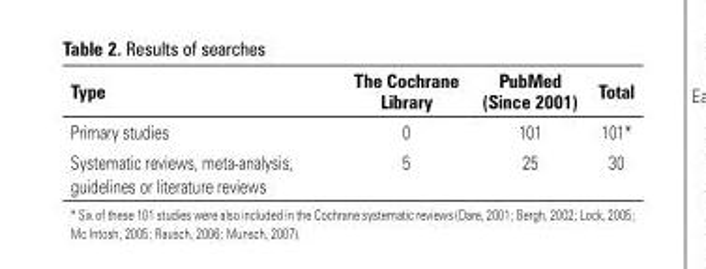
<table><thead><tr><td>Type</td><td>The Cochrane Library</td><td>PubMed (Since 2001)</td><td>Total</td></tr></thead><tbody><tr><td>Primary studies</td><td>0</td><td>101</td><td>101*</td></tr><tr><td>Systematic reviews, meta-analysis, guidelines or literature reviews</td><td>5</td><td>25</td><td>30</td></tr></tbody></table>